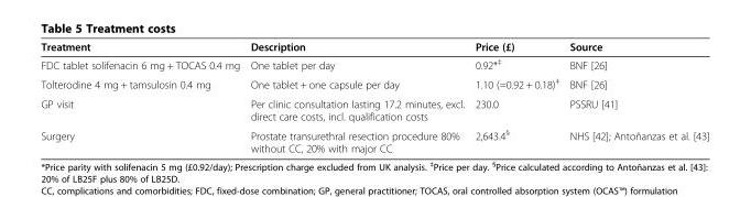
<table><thead><tr><td>Treatment</td><td>Description</td><td>Price (£)</td><td>Source</td></tr></thead><tbody><tr><td>FDC tablet solifenacin 6 mg + TOCAS 0.4 mg</td><td>One tablet per day</td><td>0.92*<sup>‡</sup></td><td>BNF [26]</td></tr><tr><td>Tolterodine 4 mg + tamsulosin 0.4 mg</td><td>One tablet + one capsule per day</td><td>1.10 (=0.92 + 0.18)<sup>‡</sup></td><td>BNF [26]</td></tr><tr><td>GP visit</td><td>Per clinic consultation lasting 17.2 minutes, excl. direct care costs, incl. qualification costs</td><td>230.0</td><td>PSSRU [41]</td></tr><tr><td>Surgery</td><td>Prostate transurethral resection procedure 80% without CC, 20% with major CC</td><td>2,643.4<sup>§</sup></td><td>NHS [42]; Antoñanzas et al. [43]</td></tr></tbody></table>